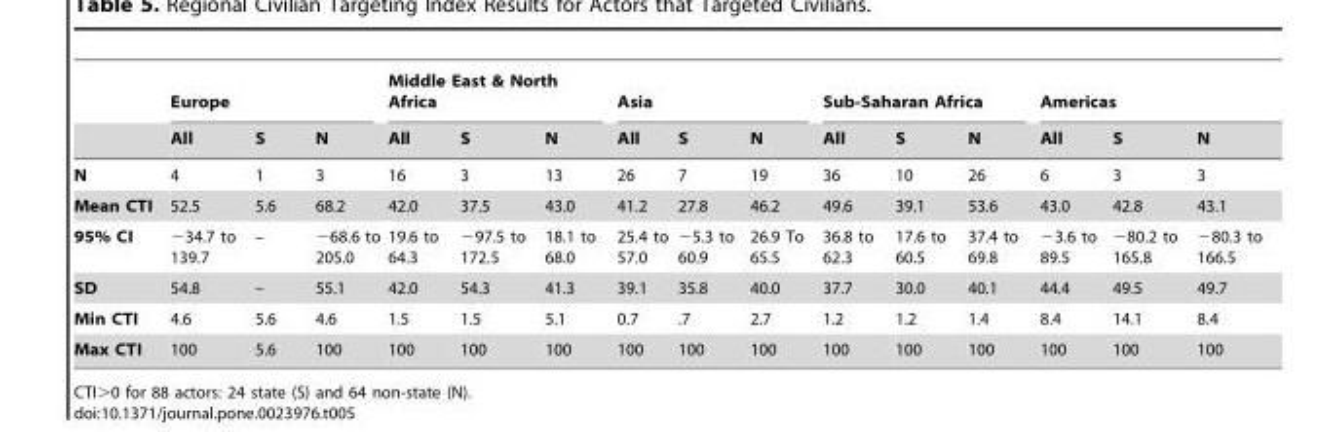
<table><thead><tr><td rowspan="2"></td><td colspan="3">Europe</td><td colspan="3">Middle East &amp; North Africa</td><td colspan="3">Asia</td><td colspan="3">Sub-Saharan Africa</td><td colspan="3">Americas</td></tr><tr><td>All</td><td>S</td><td>N</td><td>All</td><td>S</td><td>N</td><td>All</td><td>S</td><td>N</td><td>All</td><td>S</td><td>N</td><td>All</td><td>S</td><td>N</td></tr></thead><tbody><tr><td>N</td><td>4</td><td>1</td><td>3</td><td>16</td><td>3</td><td>13</td><td>26</td><td>7</td><td>19</td><td>36</td><td>10</td><td>26</td><td>6</td><td>3</td><td>3</td></tr><tr><td>Mean CTI</td><td>52.5</td><td>5.6</td><td>68.2</td><td>42.0</td><td>37.5</td><td>43.0</td><td>41.2</td><td>27.8</td><td>46.2</td><td>49.6</td><td>39.1</td><td>53.6</td><td>43.0</td><td>42.8</td><td>43.1</td></tr><tr><td>95% CI</td><td>−34.7 to 139.7</td><td>–</td><td>−68.6 to 205.0</td><td>19.6 to 64.3</td><td>−97.5 to 172.5</td><td>18.1 to 68.0</td><td>25.4 to 57.0</td><td>−5.3 to 60.9</td><td>26.9 To 65.5</td><td>36.8 to 62.3</td><td>17.6 to 60.5</td><td>37.4 to 69.8</td><td>−3.6 to 89.5</td><td>−80.2 to 165.8</td><td>−80.3 to 166.5</td></tr><tr><td>SD</td><td>54.8</td><td>–</td><td>55.1</td><td>42.0</td><td>54.3</td><td>41.3</td><td>39.1</td><td>35.8</td><td>40.0</td><td>37.7</td><td>30.0</td><td>40.1</td><td>44.4</td><td>49.5</td><td>49.7</td></tr><tr><td>Min CTI</td><td>4.6</td><td>5.6</td><td>4.6</td><td>1.5</td><td>1.5</td><td>5.1</td><td>0.7</td><td>.7</td><td>2.7</td><td>1.2</td><td>1.2</td><td>1.4</td><td>8.4</td><td>14.1</td><td>8.4</td></tr><tr><td>Max CTI</td><td>100</td><td>5.6</td><td>100</td><td>100</td><td>100</td><td>100</td><td>100</td><td>100</td><td>100</td><td>100</td><td>100</td><td>100</td><td>100</td><td>100</td><td>100</td></tr></tbody></table>